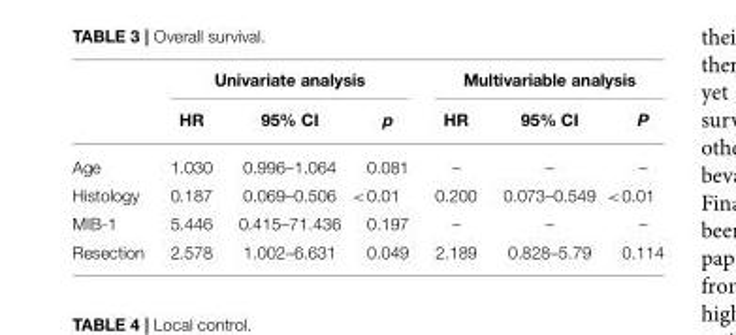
<table><thead><tr><td rowspan="2"></td><td colspan="3">Univariate analysis</td><td colspan="3">Multivariable analysis</td></tr><tr><td>HR</td><td>95% CI</td><td>p</td><td>HR</td><td>95% CI</td><td>P</td></tr></thead><tbody><tr><td>Age</td><td>1.030</td><td>0.996–1.064</td><td>0.081</td><td>–</td><td>–</td><td>–</td></tr><tr><td>Histology</td><td>0.187</td><td>0.069–0.506</td><td>&lt;0.01</td><td>0.200</td><td>0.073–0.549</td><td>&lt;0.01</td></tr><tr><td>MIB-1</td><td>5.446</td><td>0.415–71.436</td><td>0.197</td><td>–</td><td>–</td><td>–</td></tr><tr><td>Resection</td><td>2.578</td><td>1.002–6.631</td><td>0.049</td><td>2.189</td><td>0.828–5.79</td><td>0.114</td></tr></tbody></table>